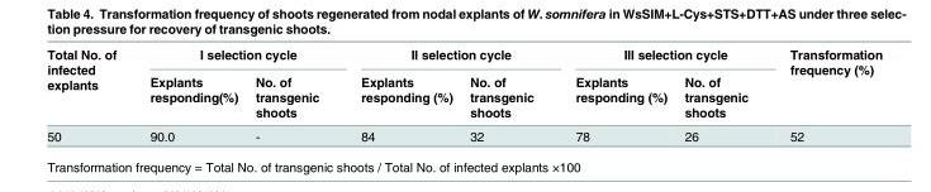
<table><thead><tr><td rowspan="2">Total No. of infected explants</td><td colspan="2">I selection cycle</td><td colspan="2">II selection cycle</td><td colspan="2">III selection cycle</td><td rowspan="2">Transformation frequency (%)</td></tr><tr><td>Explants responding(%)</td><td>No. of transgenic shoots</td><td>Explants responding (%)</td><td>No. of transgenic shoots</td><td>Explants responding (%)</td><td>No. of transgenic shoots</td></tr></thead><tbody><tr><td>50</td><td>90.0</td><td>-</td><td>84</td><td>32</td><td>78</td><td>26</td><td>52</td></tr></tbody></table>